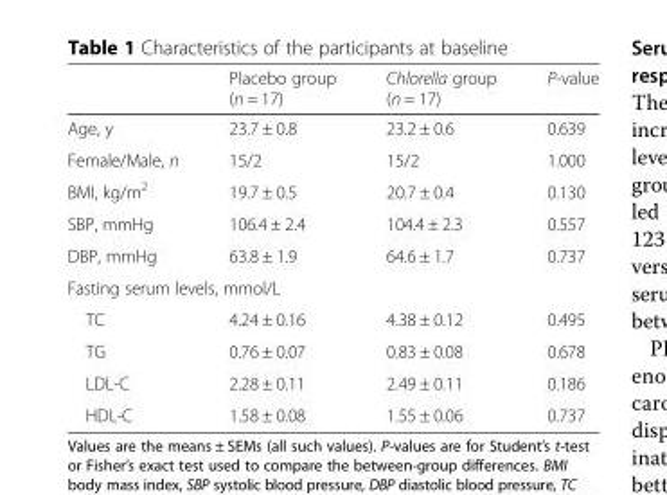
<table><thead><tr><td></td><td>Placebo group (n = 17)</td><td>Chlorella group (n = 17)</td><td>P-value</td></tr></thead><tbody><tr><td>Age, y</td><td>23.7 ± 0.8</td><td>23.2 ± 0.6</td><td>0.639</td></tr><tr><td>Female/Male, n</td><td>15/2</td><td>15/2</td><td>1.000</td></tr><tr><td>BMI, kg/m<sup>2</sup></td><td>19.7 ± 0.5</td><td>20.7 ± 0.4</td><td>0.130</td></tr><tr><td>SBP, mmHg</td><td>106.4 ± 2.4</td><td>104.4 ± 2.3</td><td>0.557</td></tr><tr><td>DBP, mmHg</td><td>63.8 ± 1.9</td><td>64.6 ± 1.7</td><td>0.737</td></tr><tr><td colspan="4">Fasting serum levels, mmol/L</td></tr><tr><td>TC</td><td>4.24 ± 0.16</td><td>4.38 ± 0.12</td><td>0.495</td></tr><tr><td>TG</td><td>0.76 ± 0.07</td><td>0.83 ± 0.08</td><td>0.678</td></tr><tr><td>LDL-C</td><td>2.28 ± 0.11</td><td>2.49 ± 0.11</td><td>0.186</td></tr><tr><td>HDL-C</td><td>1.58 ± 0.08</td><td>1.55 ± 0.06</td><td>0.737</td></tr></tbody></table>